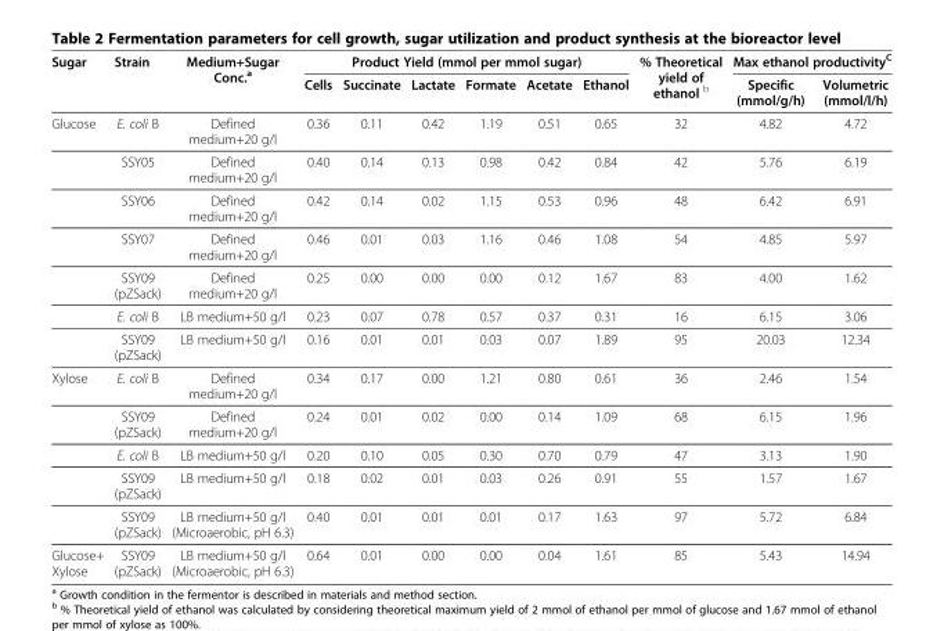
<table><thead><tr><td rowspan="2">Sugar</td><td rowspan="2">Strain</td><td rowspan="2">Medium+Sugar Conc.<sup>a</sup></td><td colspan="6">Product Yield (mmol per mmol sugar)</td><td rowspan="2">% Theoretical yield of ethanol <sup>b</sup></td><td colspan="2">Max ethanol productivity<sup>C</sup></td></tr><tr><td>Cells</td><td>Succinate</td><td>Lactate</td><td>Formate</td><td>Acetate</td><td>Ethanol</td><td>Specific (mmol/g/h)</td><td>Volumetric (mmol/l/h)</td></tr></thead><tbody><tr><td rowspan="7">Glucose</td><td>E. coli B</td><td>Defined medium+20 g/l</td><td>0.36</td><td>0.11</td><td>0.42</td><td>1.19</td><td>0.51</td><td>0.65</td><td>32</td><td>4.82</td><td>4.72</td></tr><tr><td>SSY05</td><td>Defined medium+20 g/l</td><td>0.40</td><td>0.14</td><td>0.13</td><td>0.98</td><td>0.42</td><td>0.84</td><td>42</td><td>5.76</td><td>6.19</td></tr><tr><td>SSY06</td><td>Defined medium+20 g/l</td><td>0.42</td><td>0.14</td><td>0.02</td><td>1.15</td><td>0.53</td><td>0.96</td><td>48</td><td>6.42</td><td>6.91</td></tr><tr><td>SSY07</td><td>Defined medium+20 g/l</td><td>0.46</td><td>0.01</td><td>0.03</td><td>1.16</td><td>0.46</td><td>1.08</td><td>54</td><td>4.85</td><td>5.97</td></tr><tr><td>SSY09 (pZSack)</td><td>Defined medium+20 g/l</td><td>0.25</td><td>0.00</td><td>0.00</td><td>0.00</td><td>0.12</td><td>1.67</td><td>83</td><td>4.00</td><td>1.62</td></tr><tr><td>E. coli B</td><td>LB medium+50 g/l</td><td>0.23</td><td>0.07</td><td>0.78</td><td>0.57</td><td>0.37</td><td>0.31</td><td>16</td><td>6.15</td><td>3.06</td></tr><tr><td>SSY09 (pZSack)</td><td>LB medium+50 g/l</td><td>0.16</td><td>0.01</td><td>0.01</td><td>0.03</td><td>0.07</td><td>1.89</td><td>95</td><td>20.03</td><td>12.34</td></tr><tr><td rowspan="5">Xylose</td><td>E. coli B</td><td>Defined medium+20 g/l</td><td>0.34</td><td>0.17</td><td>0.00</td><td>1.21</td><td>0.80</td><td>0.61</td><td>36</td><td>2.46</td><td>1.54</td></tr><tr><td>SSY09 (pZSack)</td><td>Defined medium+20 g/l</td><td>0.24</td><td>0.01</td><td>0.02</td><td>0.00</td><td>0.14</td><td>1.09</td><td>68</td><td>6.15</td><td>1.96</td></tr><tr><td>E. coli B</td><td>LB medium+50 g/l</td><td>0.20</td><td>0.10</td><td>0.05</td><td>0.30</td><td>0.70</td><td>0.79</td><td>47</td><td>3.13</td><td>1.90</td></tr><tr><td>SSY09 (pZSack)</td><td>LB medium+50 g/l</td><td>0.18</td><td>0.02</td><td>0.01</td><td>0.03</td><td>0.26</td><td>0.91</td><td>55</td><td>1.57</td><td>1.67</td></tr><tr><td>SSY09 (pZSack)</td><td>LB medium+50 g/l (Microaerobic, pH 6.3)</td><td>0.40</td><td>0.01</td><td>0.01</td><td>0.01</td><td>0.17</td><td>1.63</td><td>97</td><td>5.72</td><td>6.84</td></tr><tr><td>Glucose+ Xylose</td><td>SSY09 (pZSack)</td><td>LB medium+50 g/l (Microaerobic, pH 6.3)</td><td>0.64</td><td>0.01</td><td>0.00</td><td>0.00</td><td>0.04</td><td>1.61</td><td>85</td><td>5.43</td><td>14.94</td></tr></tbody></table>